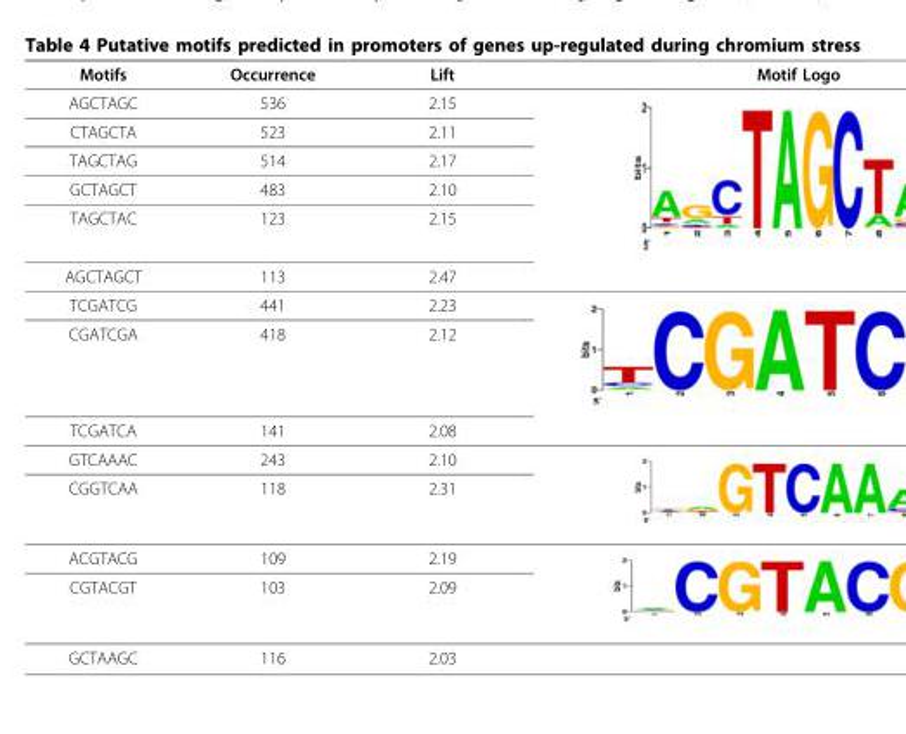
<table><thead><tr><td>Motifs</td><td>Occurrence</td><td>Lift</td><td>Motif Logo</td></tr></thead><tbody><tr><td>AGCTAGC</td><td>536</td><td>2.15</td><td></td></tr><tr><td>CTAGCTA</td><td>523</td><td>2.11</td><td></td></tr><tr><td>TAGCTAG</td><td>514</td><td>2.17</td><td></td></tr><tr><td>GCTAGCT</td><td>483</td><td>2.10</td><td></td></tr><tr><td>TAGCTAC</td><td>123</td><td>2.15</td><td></td></tr><tr><td>AGCTAGCT</td><td>113</td><td>2.47</td><td></td></tr><tr><td>TCGATCG</td><td>441</td><td>2.23</td><td></td></tr><tr><td>CGATCGA</td><td>418</td><td>2.12</td><td></td></tr><tr><td>TCGATCA</td><td>141</td><td>2.08</td><td></td></tr><tr><td>GTCAAAC</td><td>243</td><td>2.10</td><td></td></tr><tr><td>CGGTCAA</td><td>118</td><td>2.31</td><td></td></tr><tr><td>ACGTACG</td><td>109</td><td>2.19</td><td></td></tr><tr><td>CGTACGT</td><td>103</td><td>2.09</td><td></td></tr><tr><td>GCTAAGC</td><td>116</td><td>2.03</td><td></td></tr></tbody></table>